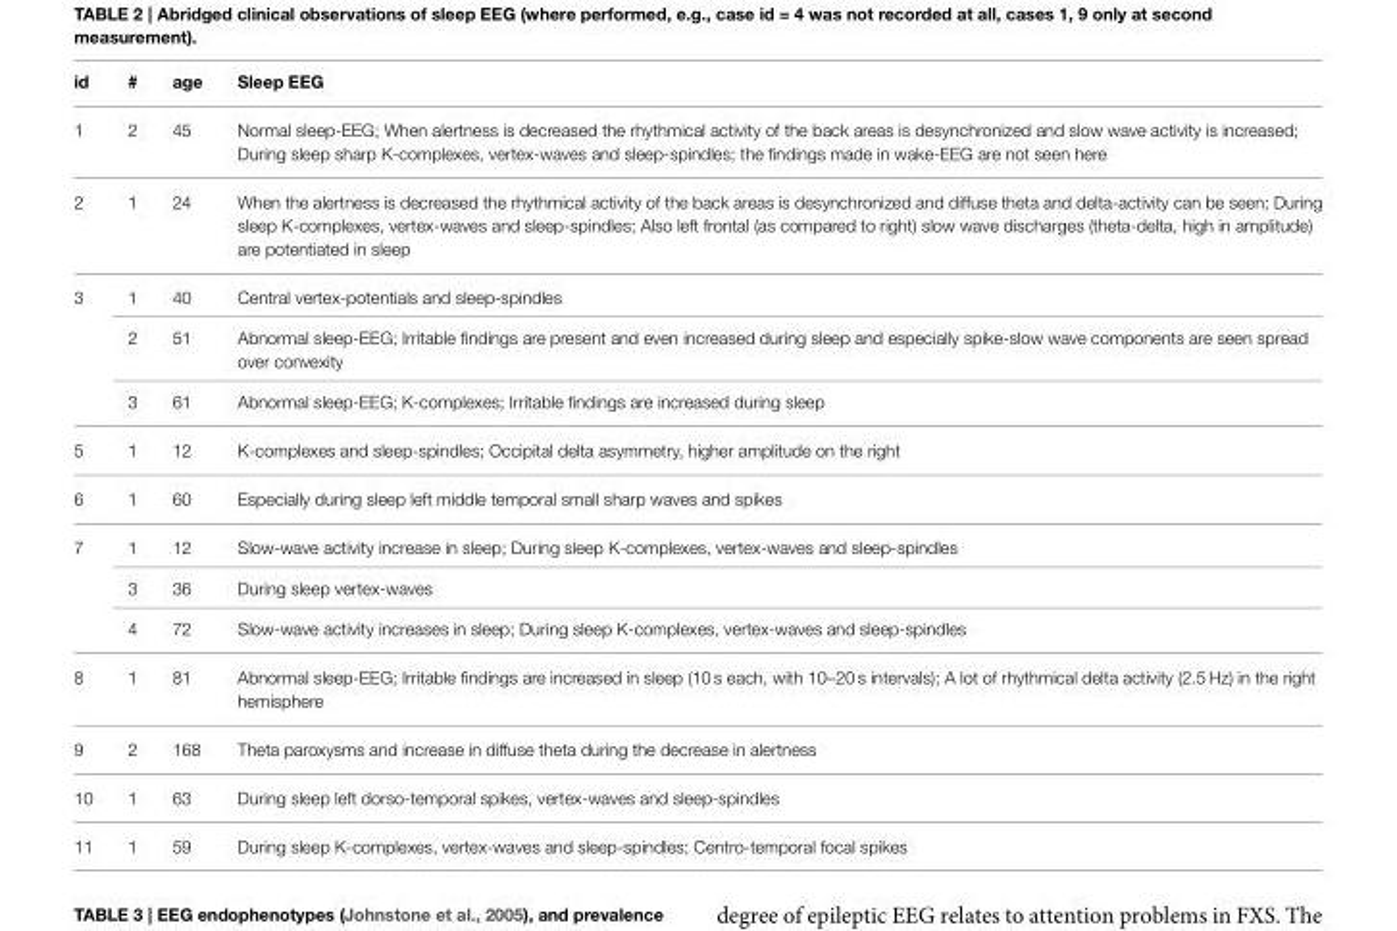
<table><thead><tr><td>id</td><td>#</td><td>age</td><td>Sleep EEG</td></tr></thead><tbody><tr><td>1</td><td>2</td><td>45</td><td>Normal sleep-EEG; When alertness is decreased the rhythmical activity of the back areas is desynchronized and slow wave activity is increased; During sleep sharp K-complexes, vertex-waves and sleep-spindles; the findings made in wake-EEG are not seen here</td></tr><tr><td>2</td><td>1</td><td>24</td><td>When the alertness is decreased the rhythmical activity of the back areas is desynchronized and diffuse theta and delta-activity can be seen; During sleep K-complexes, vertex-waves and sleep-spindles; Also left frontal (as compared to right) slow wave discharges (theta-delta, high in amplitude) are potentiated in sleep</td></tr><tr><td rowspan="3">3</td><td>1</td><td>40</td><td>Central vertex-potentials and sleep-spindles</td></tr><tr><td>2</td><td>51</td><td>Abnormal sleep-EEG; Irritable findings are present and even increased during sleep and especially spike-slow wave components are seen spread over convexity</td></tr><tr><td>3</td><td>61</td><td>Abnormal sleep-EEG; K-complexes; Irritable findings are increased during sleep</td></tr><tr><td>5</td><td>1</td><td>12</td><td>K-complexes and sleep-spindles; Occipital delta asymmetry, higher amplitude on the right</td></tr><tr><td>6</td><td>1</td><td>60</td><td>Especially during sleep left middle temporal small sharp waves and spikes</td></tr><tr><td rowspan="3">7</td><td>1</td><td>12</td><td>Slow-wave activity increase in sleep; During sleep K-complexes, vertex-waves and sleep-spindles</td></tr><tr><td>3</td><td>36</td><td>During sleep vertex-waves</td></tr><tr><td>4</td><td>72</td><td>Slow-wave activity increases in sleep; During sleep K-complexes, vertex-waves and sleep-spindles</td></tr><tr><td>8</td><td>1</td><td>81</td><td>Abnormal sleep-EEG; Irritable findings are increased in sleep (10 s each, with 10–20 s intervals); A lot of rhythmical delta activity (2.5 Hz) in the right hemisphere</td></tr><tr><td>9</td><td>2</td><td>168</td><td>Theta paroxysms and increase in diffuse theta during the decrease in alertness</td></tr><tr><td>10</td><td>1</td><td>63</td><td>During sleep left dorso-temporal spikes, vertex-waves and sleep-spindles</td></tr><tr><td>11</td><td>1</td><td>59</td><td>During sleep K-complexes, vertex-waves and sleep-spindles; Centro-temporal focal spikes</td></tr></tbody></table>